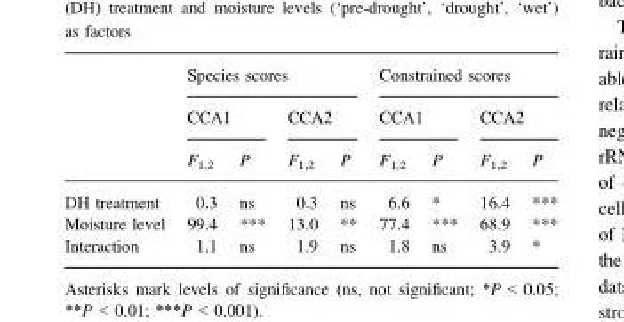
<table><thead><tr><td rowspan="3"></td><td colspan="4">Species scores</td><td colspan="4">Constrained scores</td></tr><tr><td colspan="2">CCA1</td><td colspan="2">CCA2</td><td colspan="2">CCA1</td><td colspan="2">CCA2</td></tr><tr><td>F<sub>1,2</sub></td><td>P</td><td>F<sub>1,2</sub></td><td>P</td><td>F<sub>1,2</sub></td><td>P</td><td>F<sub>1,2</sub></td><td>P</td></tr></thead><tbody><tr><td>DH treatment</td><td>0.3</td><td>ns</td><td>0.3</td><td>ns</td><td>6.6</td><td>*</td><td>16.4</td><td>***</td></tr><tr><td>Moisture level</td><td>99.4</td><td>***</td><td>13.0</td><td>**</td><td>77.4</td><td>***</td><td>68.9</td><td>***</td></tr><tr><td>Interaction</td><td>1.1</td><td>ns</td><td>1.9</td><td>ns</td><td>1.8</td><td>ns</td><td>3.9</td><td>*</td></tr></tbody></table>